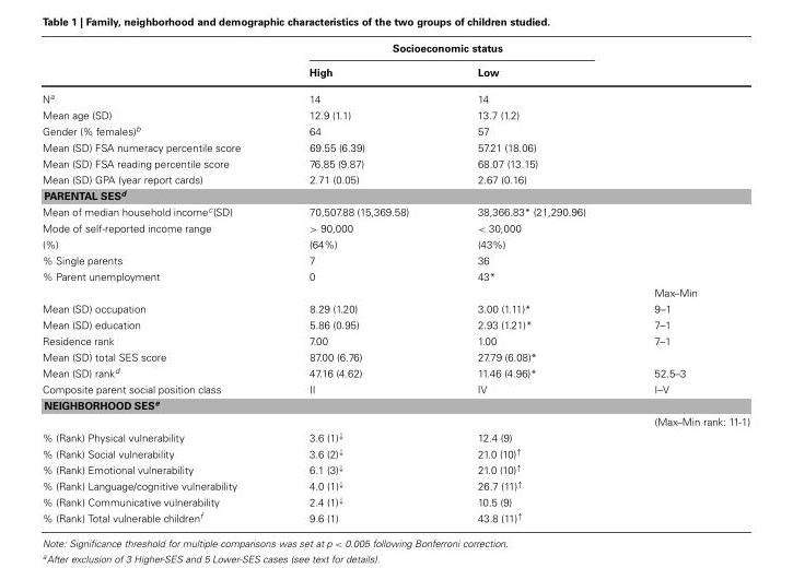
<table><thead><tr><td rowspan="2"></td><td colspan="2">Socioeconomic status</td><td rowspan="2"></td></tr><tr><td>High</td><td>Low</td></tr></thead><tbody><tr><td>N<sup>a</sup></td><td>14</td><td>14</td><td></td></tr><tr><td>Mean age (SD)</td><td>12.9 (1.1)</td><td>13.7 (1.2)</td><td></td></tr><tr><td>Gender (% females)<sup>b</sup></td><td>64</td><td>57</td><td></td></tr><tr><td>Mean (SD) FSA numeracy percentile score</td><td>69.55 (6.39)</td><td>57.21 (18.06)</td><td></td></tr><tr><td>Mean (SD) FSA reading percentile score</td><td>76.85 (9.87)</td><td>68.07 (13.15)</td><td></td></tr><tr><td>Mean (SD) GPA (year report cards)</td><td>2.71 (0.05)</td><td>2.67 (0.16)</td><td></td></tr><tr><td colspan="4">PARENTAL SES<sup>d</sup></td></tr><tr><td>Mean of median household income<sup>c</sup>(SD)</td><td>70,507.88 (15,369.58)</td><td>38,366.83* (21,290.96)</td><td></td></tr><tr><td>Mode of self-reported income range</td><td>&gt; 90,000</td><td>&lt; 30,000</td><td></td></tr><tr><td>(%)</td><td>(64%)</td><td>(43%)</td><td></td></tr><tr><td>% Single parents</td><td>7</td><td>36</td><td></td></tr><tr><td rowspan="2">% Parent unemployment</td><td>0</td><td>43*</td><td></td></tr><tr><td></td><td></td><td>Max–Min</td></tr><tr><td>Mean (SD) occupation</td><td>8.29 (1.20)</td><td>3.00 (1.11)*</td><td>9–1</td></tr><tr><td>Mean (SD) education</td><td>5.86 (0.95)</td><td>2.93 (1.21)*</td><td>7–1</td></tr><tr><td>Residence rank</td><td>7.00</td><td>1.00</td><td>7–1</td></tr><tr><td>Mean (SD) total SES score</td><td>87.00 (6.76)</td><td>27.79 (6.08)*</td><td></td></tr><tr><td>Mean (SD) rank<sup>d</sup></td><td>47.16 (4.62)</td><td>11.46 (4.96)*</td><td>52.5–3</td></tr><tr><td>Composite parent social position class</td><td>II</td><td>IV</td><td>I–V</td></tr><tr><td colspan="4">NEIGHBORHOOD SES<sup>e</sup></td></tr><tr><td></td><td></td><td></td><td>(Max–Min rank: 11-1)</td></tr><tr><td>% (Rank) Physical vulnerability</td><td>3.6 (1)<sup>↓</sup></td><td>12.4 (9)</td><td></td></tr><tr><td>% (Rank) Social vulnerability</td><td>3.6 (2)<sup>↓</sup></td><td>21.0 (10)<sup>↑</sup></td><td></td></tr><tr><td>% (Rank) Emotional vulnerability</td><td>6.1 (3)<sup>↓</sup></td><td>21.0 (10)<sup>↑</sup></td><td></td></tr><tr><td>% (Rank) Language/cognitive vulnerability</td><td>4.0 (1)<sup>↓</sup></td><td>26.7 (11)<sup>↑</sup></td><td></td></tr><tr><td>% (Rank) Communicative vulnerability</td><td>2.4 (1)<sup>↓</sup></td><td>10.5 (9)</td><td></td></tr><tr><td>% (Rank) Total vulnerable children<sup>f</sup></td><td>9.6 (1)</td><td>43.8 (11)<sup>↑</sup></td><td></td></tr></tbody></table>